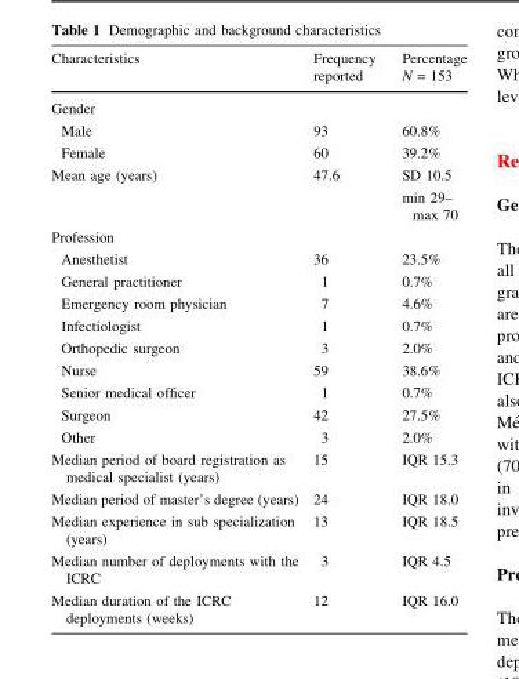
<table><thead><tr><td>Characteristics</td><td>Frequency reported</td><td>Percentage N = 153</td></tr></thead><tbody><tr><td colspan="3">Gender</td></tr><tr><td>Male</td><td>93</td><td>60.8%</td></tr><tr><td>Female</td><td>60</td><td>39.2%</td></tr><tr><td>Mean age (years)</td><td>47.6</td><td>SD 10.5 min 29– max 70</td></tr><tr><td colspan="3">Profession</td></tr><tr><td>Anesthetist</td><td>36</td><td>23.5%</td></tr><tr><td>General practitioner</td><td>1</td><td>0.7%</td></tr><tr><td>Emergency room physician</td><td>7</td><td>4.6%</td></tr><tr><td>Infectiologist</td><td>1</td><td>0.7%</td></tr><tr><td>Orthopedic surgeon</td><td>3</td><td>2.0%</td></tr><tr><td>Nurse</td><td>59</td><td>38.6%</td></tr><tr><td>Senior medical officer</td><td>1</td><td>0.7%</td></tr><tr><td>Surgeon</td><td>42</td><td>27.5%</td></tr><tr><td>Other</td><td>3</td><td>2.0%</td></tr><tr><td>Median period of board registration as medical specialist (years)</td><td>15</td><td>IQR 15.3</td></tr><tr><td>Median period of master’s degree (years)</td><td>24</td><td>IQR 18.0</td></tr><tr><td>Median experience in sub specialization (years)</td><td>13</td><td>IQR 18.5</td></tr><tr><td>Median number of deployments with the ICRC</td><td>3</td><td>IQR 4.5</td></tr><tr><td>Median duration of the ICRC deployments (weeks)</td><td>12</td><td>IQR 16.0</td></tr></tbody></table>